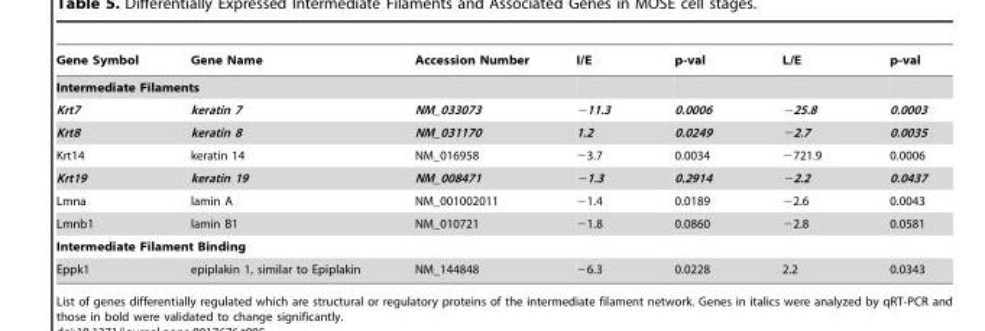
<table><thead><tr><td>Gene Symbol</td><td>Gene Name</td><td>Accession Number</td><td>I/E</td><td>p-val</td><td>L/E</td><td>p-val</td></tr></thead><tbody><tr><td colspan="7">Intermediate Filaments</td></tr><tr><td>Krt7</td><td>keratin 7</td><td>NM_033073</td><td>−11.3</td><td>0.0006</td><td>−25.8</td><td>0.0003</td></tr><tr><td>Krt8</td><td>keratin 8</td><td>NM_031170</td><td>1.2</td><td>0.0249</td><td>−2.7</td><td>0.0035</td></tr><tr><td>Krt14</td><td>keratin 14</td><td>NM_016958</td><td>−3.7</td><td>0.0034</td><td>−721.9</td><td>0.0006</td></tr><tr><td>Krt19</td><td>keratin 19</td><td>NM_008471</td><td>−1.3</td><td>0.2914</td><td>−2.2</td><td>0.0437</td></tr><tr><td>Lmna</td><td>lamin A</td><td>NM_001002011</td><td>−1.4</td><td>0.0189</td><td>−2.6</td><td>0.0043</td></tr><tr><td>Lmnb1</td><td>lamin B1</td><td>NM_010721</td><td>−1.8</td><td>0.0860</td><td>−2.8</td><td>0.0581</td></tr><tr><td colspan="7">Intermediate Filament Binding</td></tr><tr><td>Eppk1</td><td>epiplakin 1, similar to Epiplakin</td><td>NM_144848</td><td>−6.3</td><td>0.0228</td><td>2.2</td><td>0.0343</td></tr></tbody></table>